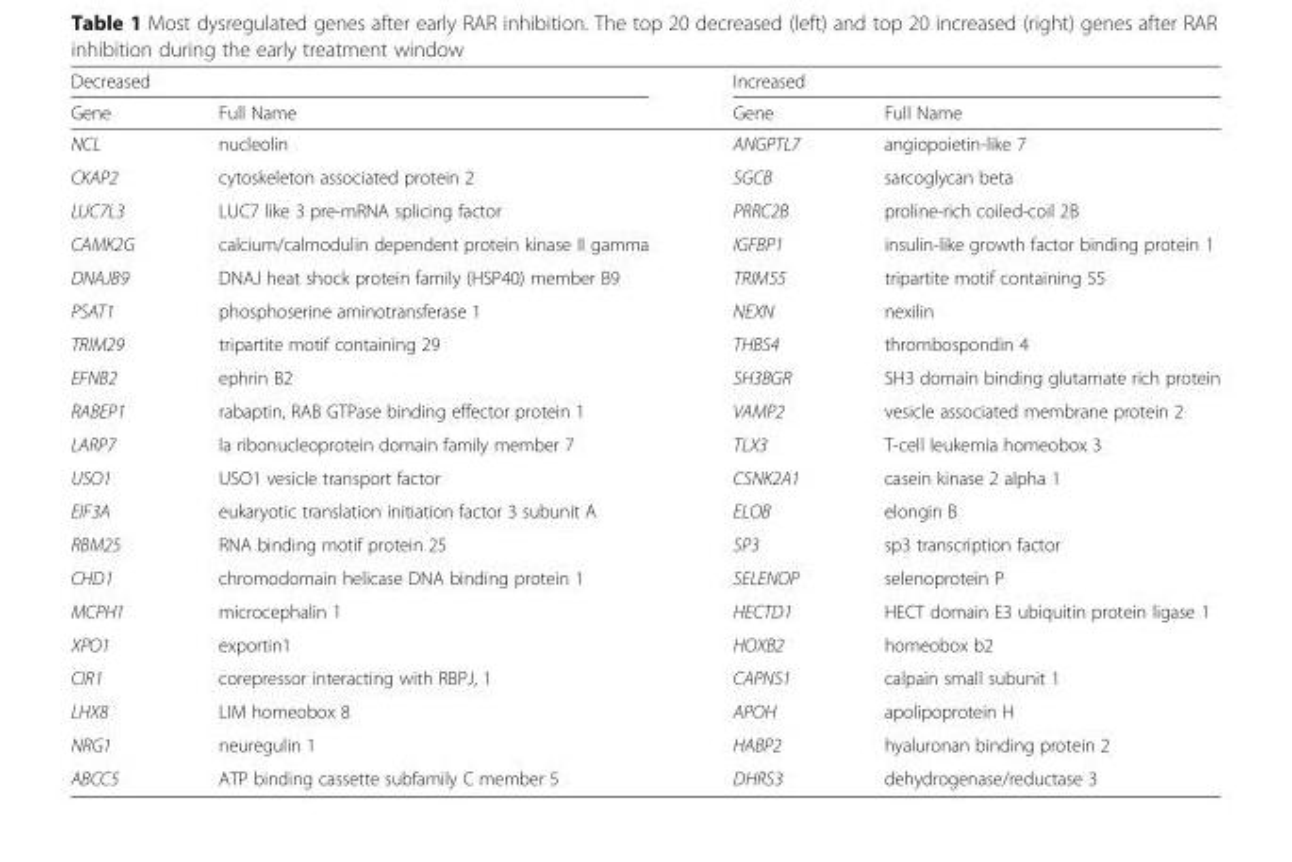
<table><thead><tr><td colspan="2">Decreased</td><td colspan="2">Increased</td></tr><tr><td>Gene</td><td>Full Name</td><td>Gene</td><td>Full Name</td></tr></thead><tbody><tr><td>NCL</td><td>nucleolin</td><td>ANGPTL7</td><td>angiopoietin-like 7</td></tr><tr><td>CKAP2</td><td>cytoskeleton associated protein 2</td><td>SGCB</td><td>sarcoglycan beta</td></tr><tr><td>LUC7L3</td><td>LUC7 like 3 pre-mRNA splicing factor</td><td>PRRC2B</td><td>proline-rich coiled-coil 2B</td></tr><tr><td>CAMK2G</td><td>calcium/calmodulin dependent protein kinase II gamma</td><td>IGFBP1</td><td>insulin-like growth factor binding protein 1</td></tr><tr><td>DNAJB9</td><td>DNAJ heat shock protein family (HSP40) member B9</td><td>TRIM55</td><td>tripartite motif containing 55</td></tr><tr><td>PSAT1</td><td>phosphoserine aminotransferase 1</td><td>NEXN</td><td>nexilin</td></tr><tr><td>TRIM29</td><td>tripartite motif containing 29</td><td>THBS4</td><td>thrombospondin 4</td></tr><tr><td>EFNB2</td><td>ephrin B2</td><td>SH3BGR</td><td>SH3 domain binding glutamate rich protein</td></tr><tr><td>RABEP1</td><td>rabaptin, RAB GTPase binding effector protein 1</td><td>VAMP2</td><td>vesicle associated membrane protein 2</td></tr><tr><td>LARP7</td><td>la ribonucleoprotein domain family member 7</td><td>TLX3</td><td>T-cell leukemia homeobox 3</td></tr><tr><td>USO1</td><td>USO1 vesicle transport factor</td><td>CSNK2A1</td><td>casein kinase 2 alpha 1</td></tr><tr><td>EIF3A</td><td>eukaryotic translation initiation factor 3 subunit A</td><td>ELOB</td><td>elongin B</td></tr><tr><td>RBM25</td><td>RNA binding motif protein 25</td><td>SP3</td><td>sp3 transcription factor</td></tr><tr><td>CHD1</td><td>chromodomain helicase DNA binding protein 1</td><td>SELENOP</td><td>selenoprotein P</td></tr><tr><td>MCPH1</td><td>microcephalin 1</td><td>HECTD1</td><td>HECT domain E3 ubiquitin protein ligase 1</td></tr><tr><td>XPO1</td><td>exportin1</td><td>HOXB2</td><td>homeobox b2</td></tr><tr><td>CIR1</td><td>corepressor interacting with RBPJ, 1</td><td>CAPNS1</td><td>calpain small subunit 1</td></tr><tr><td>LHX8</td><td>LIM homeobox 8</td><td>APOH</td><td>apolipoprotein H</td></tr><tr><td>NRG1</td><td>neuregulin 1</td><td>HABP2</td><td>hyaluronan binding protein 2</td></tr><tr><td>ABCC5</td><td>ATP binding cassette subfamily C member 5</td><td>DHRS3</td><td>dehydrogenase/reductase 3</td></tr></tbody></table>